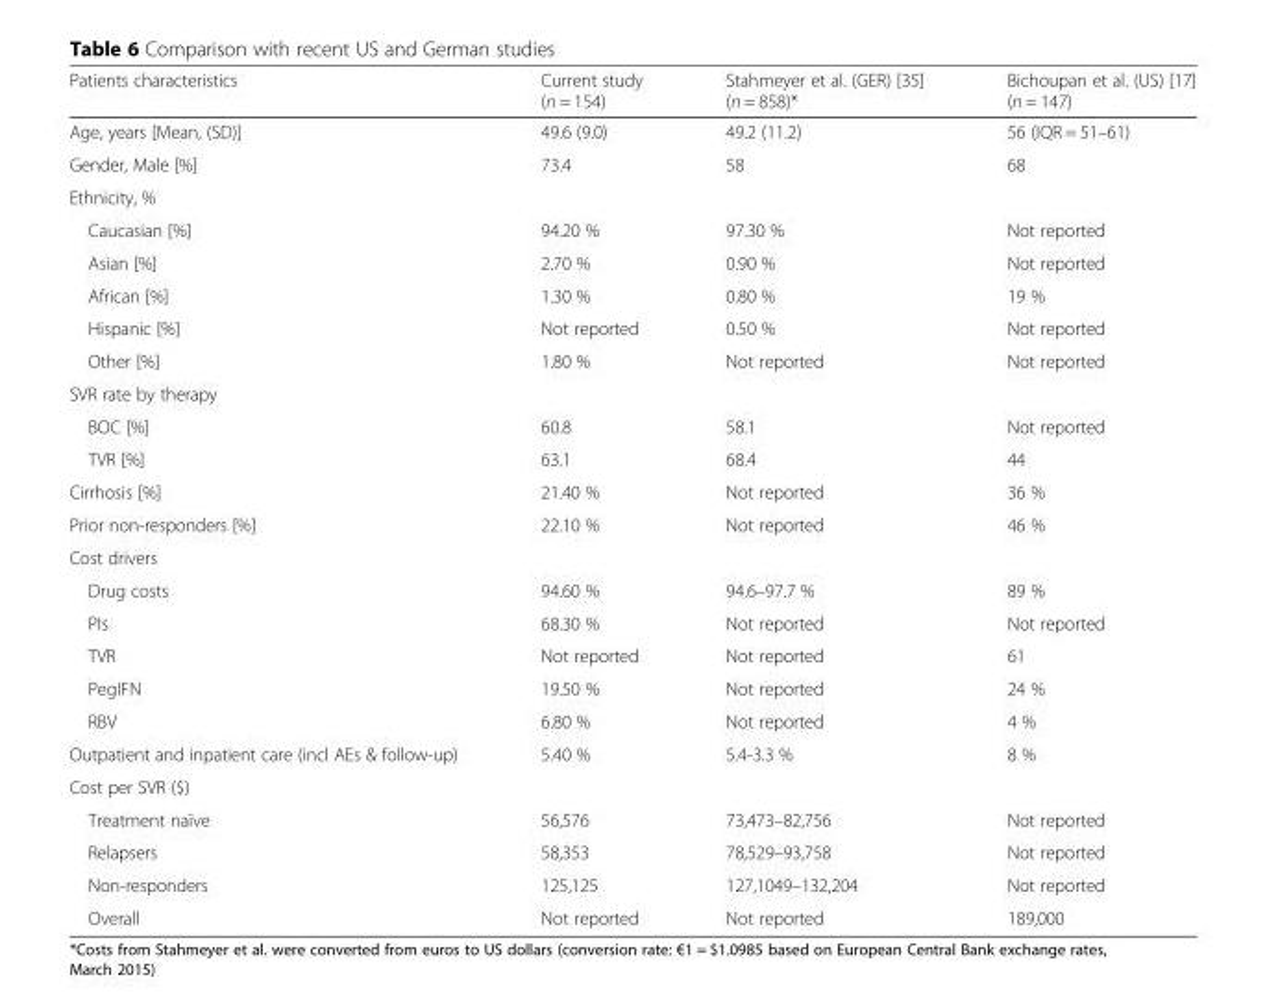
<table><thead><tr><td>Patients characteristics</td><td>Current study (n = 154)</td><td>Stahmeyer et al. (GER) [35] (n = 858)*</td><td>Bichoupan et al. (US) [17] (n = 147)</td></tr></thead><tbody><tr><td>Age, years [Mean, (SD)]</td><td>49.6 (9.0)</td><td>49.2 (11.2)</td><td>56 (IQR = 51–61)</td></tr><tr><td>Gender, Male [%]</td><td>73.4</td><td>58</td><td>68</td></tr><tr><td colspan="4">Ethnicity, %</td></tr><tr><td>Caucasian [%]</td><td>94.20 %</td><td>97.30 %</td><td>Not reported</td></tr><tr><td>Asian [%]</td><td>2.70 %</td><td>0.90 %</td><td>Not reported</td></tr><tr><td>African [%]</td><td>1.30 %</td><td>0.80 %</td><td>19 %</td></tr><tr><td>Hispanic [%]</td><td>Not reported</td><td>0.50 %</td><td>Not reported</td></tr><tr><td>Other [%]</td><td>1.80 %</td><td>Not reported</td><td>Not reported</td></tr><tr><td colspan="4">SVR rate by therapy</td></tr><tr><td>BOC [%]</td><td>60.8</td><td>58.1</td><td>Not reported</td></tr><tr><td>TVR [%]</td><td>63.1</td><td>68.4</td><td>44</td></tr><tr><td>Cirrhosis [%]</td><td>21.40 %</td><td>Not reported</td><td>36 %</td></tr><tr><td>Prior non-responders [%]</td><td>22.10 %</td><td>Not reported</td><td>46 %</td></tr><tr><td colspan="4">Cost drivers</td></tr><tr><td>Drug costs</td><td>94.60 %</td><td>94.6–97.7 %</td><td>89 %</td></tr><tr><td>PIs</td><td>68.30 %</td><td>Not reported</td><td>Not reported</td></tr><tr><td>TVR</td><td>Not reported</td><td>Not reported</td><td>61</td></tr><tr><td>PegIFN</td><td>19.50 %</td><td>Not reported</td><td>24 %</td></tr><tr><td>RBV</td><td>6.80 %</td><td>Not reported</td><td>4 %</td></tr><tr><td>Outpatient and inpatient care (incl AEs &amp; follow-up)</td><td>5.40 %</td><td>5.4-3.3 %</td><td>8 %</td></tr><tr><td colspan="4">Cost per SVR ($)</td></tr><tr><td>Treatment naïve</td><td>56,576</td><td>73,473–82,756</td><td>Not reported</td></tr><tr><td>Relapsers</td><td>58,353</td><td>78,529–93,758</td><td>Not reported</td></tr><tr><td>Non-responders</td><td>125,125</td><td>127,1049–132,204</td><td>Not reported</td></tr><tr><td>Overall</td><td>Not reported</td><td>Not reported</td><td>189,000</td></tr></tbody></table>